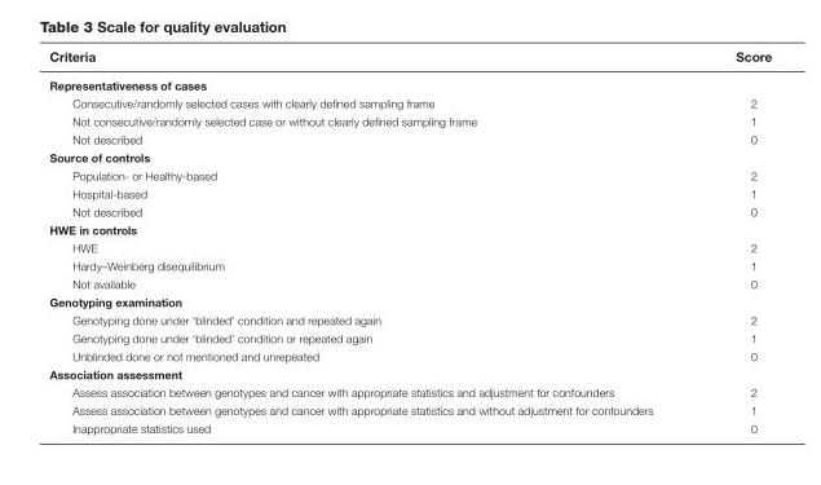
<table><thead><tr><td>Criteria</td><td>Score</td></tr></thead><tbody><tr><td colspan="2">Representativeness of cases</td></tr><tr><td>Consecutive/randomly selected cases with clearly defined sampling frame</td><td>2</td></tr><tr><td>Not consecutive/randomly selected case or without clearly defined sampling frame</td><td>1</td></tr><tr><td>Not described</td><td>0</td></tr><tr><td colspan="2">Source of controls</td></tr><tr><td>Population- or Healthy-based</td><td>2</td></tr><tr><td>Hospital-based</td><td>1</td></tr><tr><td>Not described</td><td>0</td></tr><tr><td colspan="2">HWE in controls</td></tr><tr><td>HWE</td><td>2</td></tr><tr><td>Hardy–Weinberg disequilibrium</td><td>1</td></tr><tr><td>Not available</td><td>0</td></tr><tr><td colspan="2">Genotyping examination</td></tr><tr><td>Genotyping done under ‘blinded’ condition and repeated again</td><td>2</td></tr><tr><td>Genotyping done under ‘blinded’ condition or repeated again</td><td>1</td></tr><tr><td>Unblinded done or not mentioned and unrepeated</td><td>0</td></tr><tr><td colspan="2">Association assessment</td></tr><tr><td>Assess association between genotypes and cancer with appropriate statistics and adjustment for confounders</td><td>2</td></tr><tr><td>Assess association between genotypes and cancer with appropriate statistics and without adjustment for confounders</td><td>1</td></tr><tr><td>Inappropriate statistics used</td><td>0</td></tr></tbody></table>